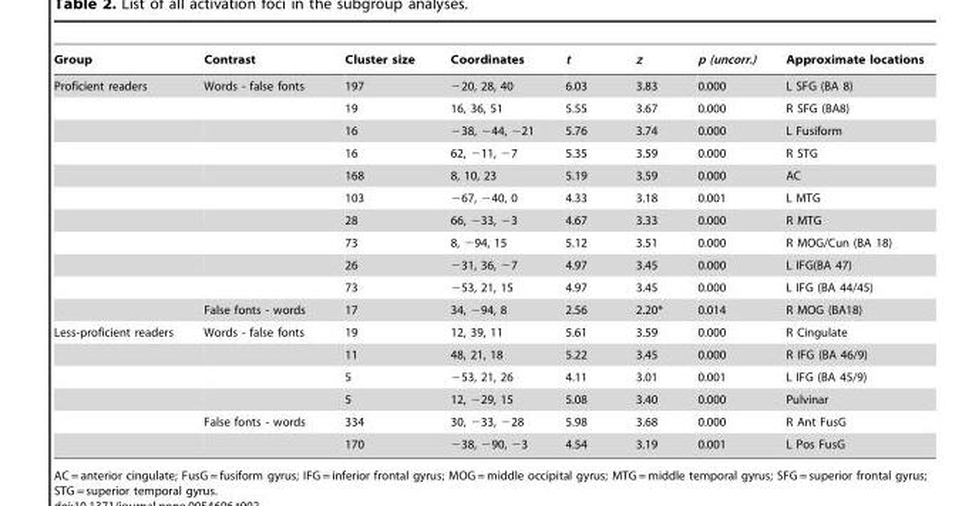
<table><thead><tr><td>Group</td><td>Contrast</td><td>Cluster size</td><td>Coordinates</td><td>t</td><td>z</td><td>p (uncorr.)</td><td>Approximate locations</td></tr></thead><tbody><tr><td rowspan="11">Proficient readers</td><td>Words - false fonts</td><td>197</td><td>−20, 28, 40</td><td>6.03</td><td>3.83</td><td>0.000</td><td>L SFG (BA 8)</td></tr><tr><td></td><td>19</td><td>16, 36, 51</td><td>5.55</td><td>3.67</td><td>0.000</td><td>R SFG (BA8)</td></tr><tr><td></td><td>16</td><td>−38, −44, −21</td><td>5.76</td><td>3.74</td><td>0.000</td><td>L Fusiform</td></tr><tr><td></td><td>16</td><td>62, −11, −7</td><td>5.35</td><td>3.59</td><td>0.000</td><td>R STG</td></tr><tr><td></td><td>168</td><td>8, 10, 23</td><td>5.19</td><td>3.59</td><td>0.000</td><td>AC</td></tr><tr><td></td><td>103</td><td>−67, −40, 0</td><td>4.33</td><td>3.18</td><td>0.001</td><td>L MTG</td></tr><tr><td></td><td>28</td><td>66, −33, −3</td><td>4.67</td><td>3.33</td><td>0.000</td><td>R MTG</td></tr><tr><td></td><td>73</td><td>8, −94, 15</td><td>5.12</td><td>3.51</td><td>0.000</td><td>R MOG/Cun (BA 18)</td></tr><tr><td></td><td>26</td><td>−31, 36, −7</td><td>4.97</td><td>3.45</td><td>0.000</td><td>L IFG(BA 47)</td></tr><tr><td></td><td>73</td><td>−53, 21, 15</td><td>4.97</td><td>3.45</td><td>0.000</td><td>L IFG (BA 44/45)</td></tr><tr><td>False fonts - words</td><td>17</td><td>34, −94, 8</td><td>2.56</td><td>2.20*</td><td>0.014</td><td>R MOG (BA18)</td></tr><tr><td rowspan="6">Less-proficient readers</td><td>Words - false fonts</td><td>19</td><td>12, 39, 11</td><td>5.61</td><td>3.59</td><td>0.000</td><td>R Cingulate</td></tr><tr><td></td><td>11</td><td>48, 21, 18</td><td>5.22</td><td>3.45</td><td>0.000</td><td>R IFG (BA 46/9)</td></tr><tr><td></td><td>5</td><td>−53, 21, 26</td><td>4.11</td><td>3.01</td><td>0.001</td><td>L IFG (BA 45/9)</td></tr><tr><td></td><td>5</td><td>12, −29, 15</td><td>5.08</td><td>3.40</td><td>0.000</td><td>Pulvinar</td></tr><tr><td>False fonts - words</td><td>334</td><td>30, −33, −28</td><td>5.98</td><td>3.68</td><td>0.000</td><td>R Ant FusG</td></tr><tr><td></td><td>170</td><td>−38, −90, −3</td><td>4.54</td><td>3.19</td><td>0.001</td><td>L Pos FusG</td></tr></tbody></table>